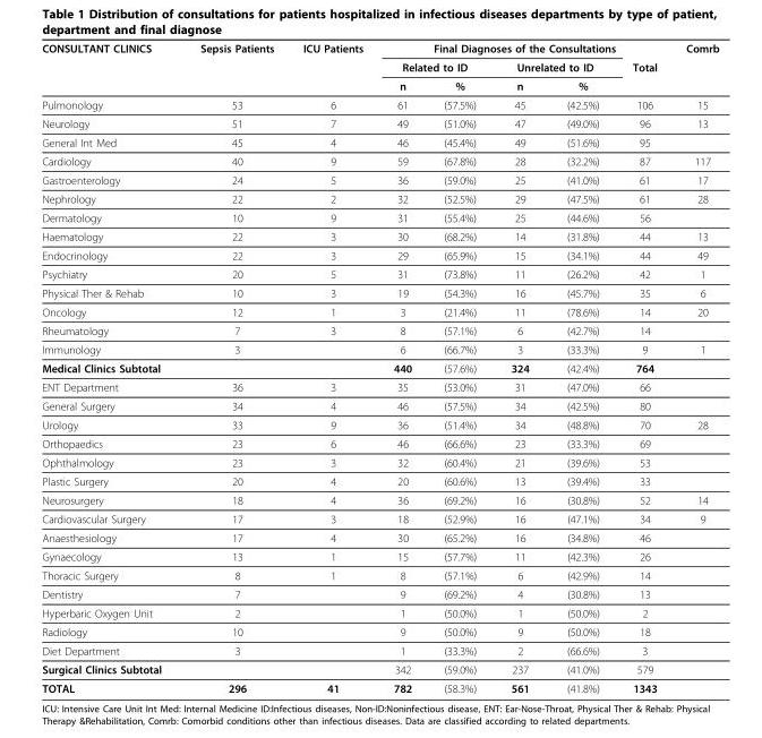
<table><thead><tr><td rowspan="3">CONSULTANT CLINICS</td><td rowspan="3">Sepsis Patients</td><td rowspan="3">ICU Patients</td><td colspan="5">Final Diagnoses of the Consultations</td><td rowspan="3">Comrb</td></tr><tr><td colspan="2">Related to ID</td><td colspan="2">Unrelated to ID</td><td rowspan="2">Total</td></tr><tr><td>n</td><td>%</td><td>n</td><td>%</td></tr></thead><tbody><tr><td>Pulmonology</td><td>53</td><td>6</td><td>61</td><td>(57.5%)</td><td>45</td><td>(42.5%)</td><td>106</td><td>15</td></tr><tr><td>Neurology</td><td>51</td><td>7</td><td>49</td><td>(51.0%)</td><td>47</td><td>(49.0%)</td><td>96</td><td>13</td></tr><tr><td>General Int Med</td><td>45</td><td>4</td><td>46</td><td>(45.4%)</td><td>49</td><td>(51.6%)</td><td>95</td><td></td></tr><tr><td>Cardiology</td><td>40</td><td>9</td><td>59</td><td>(67.8%)</td><td>28</td><td>(32.2%)</td><td>87</td><td>117</td></tr><tr><td>Gastroenterology</td><td>24</td><td>5</td><td>36</td><td>(59.0%)</td><td>25</td><td>(41.0%)</td><td>61</td><td>17</td></tr><tr><td>Nephrology</td><td>22</td><td>2</td><td>32</td><td>(52.5%)</td><td>29</td><td>(47.5%)</td><td>61</td><td>28</td></tr><tr><td>Dermatology</td><td>10</td><td>9</td><td>31</td><td>(55.4%)</td><td>25</td><td>(44.6%)</td><td>56</td><td></td></tr><tr><td>Haematology</td><td>22</td><td>3</td><td>30</td><td>(68.2%)</td><td>14</td><td>(31.8%)</td><td>44</td><td>13</td></tr><tr><td>Endocrinology</td><td>22</td><td>3</td><td>29</td><td>(65.9%)</td><td>15</td><td>(34.1%)</td><td>44</td><td>49</td></tr><tr><td>Psychiatry</td><td>20</td><td>5</td><td>31</td><td>(73.8%)</td><td>11</td><td>(26.2%)</td><td>42</td><td>1</td></tr><tr><td>Physical Ther &amp; Rehab</td><td>10</td><td>3</td><td>19</td><td>(54.3%)</td><td>16</td><td>(45.7%)</td><td>35</td><td>6</td></tr><tr><td>Oncology</td><td>12</td><td>1</td><td>3</td><td>(21.4%)</td><td>11</td><td>(78.6%)</td><td>14</td><td>20</td></tr><tr><td>Rheumatology</td><td>7</td><td>3</td><td>8</td><td>(57.1%)</td><td>6</td><td>(42.7%)</td><td>14</td><td></td></tr><tr><td>Immunology</td><td>3</td><td></td><td>6</td><td>(66.7%)</td><td>3</td><td>(33.3%)</td><td>9</td><td>1</td></tr><tr><td>Medical Clinics Subtotal</td><td></td><td></td><td>440</td><td>(57.6%)</td><td>324</td><td>(42.4%)</td><td>764</td><td></td></tr><tr><td>ENT Department</td><td>36</td><td>3</td><td>35</td><td>(53.0%)</td><td>31</td><td>(47.0%)</td><td>66</td><td></td></tr><tr><td>General Surgery</td><td>34</td><td>4</td><td>46</td><td>(57.5%)</td><td>34</td><td>(42.5%)</td><td>80</td><td></td></tr><tr><td>Urology</td><td>33</td><td>9</td><td>36</td><td>(51.4%)</td><td>34</td><td>(48.8%)</td><td>70</td><td>28</td></tr><tr><td>Orthopaedics</td><td>23</td><td>6</td><td>46</td><td>(66.6%)</td><td>23</td><td>(33.3%)</td><td>69</td><td></td></tr><tr><td>Ophthalmology</td><td>23</td><td>3</td><td>32</td><td>(60.4%)</td><td>21</td><td>(39.6%)</td><td>53</td><td></td></tr><tr><td>Plastic Surgery</td><td>20</td><td>4</td><td>20</td><td>(60.6%)</td><td>13</td><td>(39.4%)</td><td>33</td><td></td></tr><tr><td>Neurosurgery</td><td>18</td><td>4</td><td>36</td><td>(69.2%)</td><td>16</td><td>(30.8%)</td><td>52</td><td>14</td></tr><tr><td>Cardiovascular Surgery</td><td>17</td><td>3</td><td>18</td><td>(52.9%)</td><td>16</td><td>(47.1%)</td><td>34</td><td>9</td></tr><tr><td>Anaesthesiology</td><td>17</td><td>4</td><td>30</td><td>(65.2%)</td><td>16</td><td>(34.8%)</td><td>46</td><td></td></tr><tr><td>Gynaecology</td><td>13</td><td>1</td><td>15</td><td>(57.7%)</td><td>11</td><td>(42.3%)</td><td>26</td><td></td></tr><tr><td>Thoracic Surgery</td><td>8</td><td>1</td><td>8</td><td>(57.1%)</td><td>6</td><td>(42.9%)</td><td>14</td><td></td></tr><tr><td>Dentistry</td><td>7</td><td></td><td>9</td><td>(69.2%)</td><td>4</td><td>(30.8%)</td><td>13</td><td></td></tr><tr><td>Hyperbaric Oxygen Unit</td><td>2</td><td></td><td>1</td><td>(50.0%)</td><td>1</td><td>(50.0%)</td><td>2</td><td></td></tr><tr><td>Radiology</td><td>10</td><td></td><td>9</td><td>(50.0%)</td><td>9</td><td>(50.0%)</td><td>18</td><td></td></tr><tr><td>Diet Department</td><td>3</td><td></td><td>1</td><td>(33.3%)</td><td>2</td><td>(66.6%)</td><td>3</td><td></td></tr><tr><td>Surgical Clinics Subtotal</td><td></td><td></td><td>342</td><td>(59.0%)</td><td>237</td><td>(41.0%)</td><td>579</td><td></td></tr><tr><td>TOTAL</td><td>296</td><td>41</td><td>782</td><td>(58.3%)</td><td>561</td><td>(41.8%)</td><td>1343</td><td></td></tr></tbody></table>